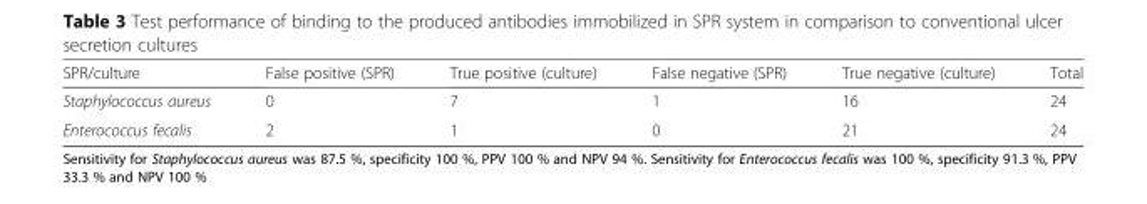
<table><thead><tr><td>SPR/culture</td><td>False positive (SPR)</td><td>True positive (culture)</td><td>False negative (SPR)</td><td>True negative (culture)</td><td>Total</td></tr></thead><tbody><tr><td>Staphylococcus aureus</td><td>0</td><td>7</td><td>1</td><td>16</td><td>24</td></tr><tr><td>Enterococcus fecalis</td><td>2</td><td>1</td><td>0</td><td>21</td><td>24</td></tr></tbody></table>